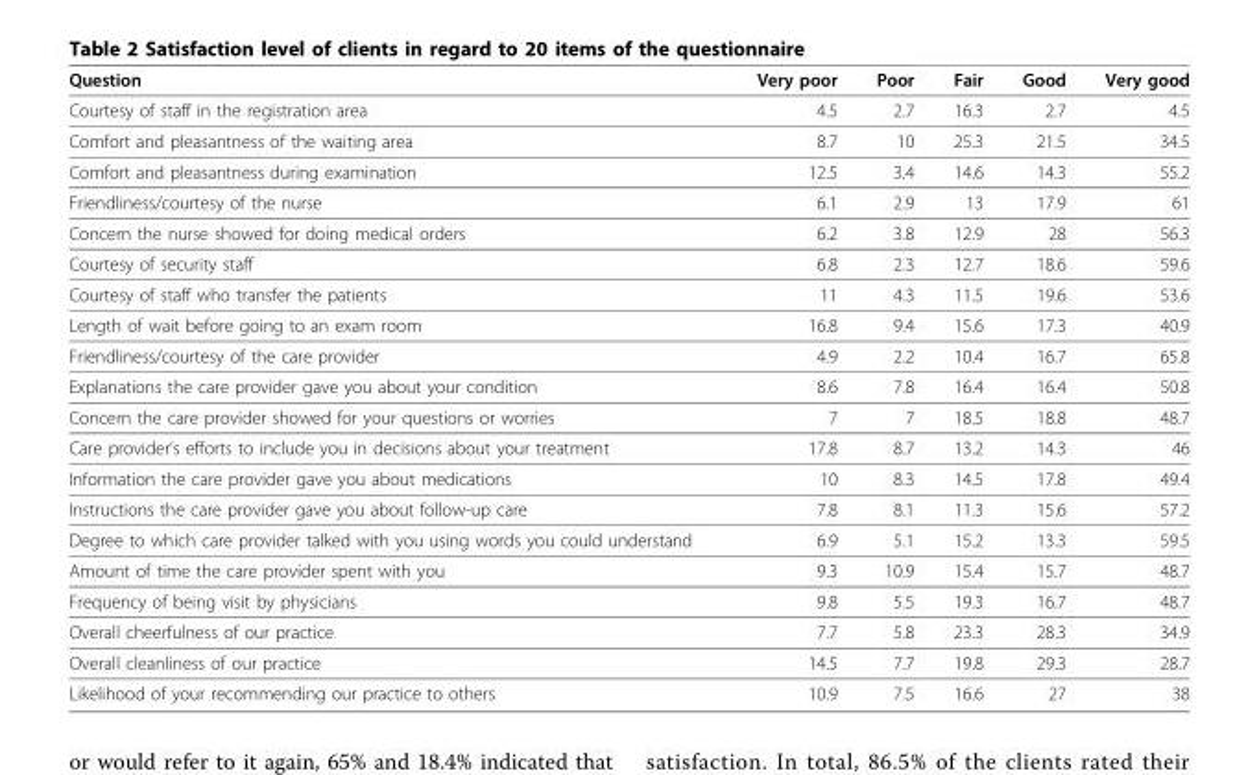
<table><thead><tr><td>Question</td><td>Very poor</td><td>Poor</td><td>Fair</td><td>Good</td><td>Very good</td></tr></thead><tbody><tr><td>Courtesy of staff in the registration area</td><td>4.5</td><td>2.7</td><td>16.3</td><td>2.7</td><td>4.5</td></tr><tr><td>Comfort and pleasantness of the waiting area</td><td>8.7</td><td>10</td><td>25.3</td><td>21.5</td><td>34.5</td></tr><tr><td>Comfort and pleasantness during examination</td><td>12.5</td><td>3.4</td><td>14.6</td><td>14.3</td><td>55.2</td></tr><tr><td>Friendliness/courtesy of the nurse</td><td>6.1</td><td>2.9</td><td>13</td><td>17.9</td><td>61</td></tr><tr><td>Concern the nurse showed for doing medical orders</td><td>6.2</td><td>3.8</td><td>12.9</td><td>28</td><td>56.3</td></tr><tr><td>Courtesy of security staff</td><td>6.8</td><td>2.3</td><td>12.7</td><td>18.6</td><td>59.6</td></tr><tr><td>Courtesy of staff who transfer the patients</td><td>11</td><td>4.3</td><td>11.5</td><td>19.6</td><td>53.6</td></tr><tr><td>Length of wait before going to an exam room</td><td>16.8</td><td>9.4</td><td>15.6</td><td>17.3</td><td>40.9</td></tr><tr><td>Friendliness/courtesy of the care provider</td><td>4.9</td><td>2.2</td><td>10.4</td><td>16.7</td><td>65.8</td></tr><tr><td>Explanations the care provider gave you about your condition</td><td>8.6</td><td>7.8</td><td>16.4</td><td>16.4</td><td>50.8</td></tr><tr><td>Concern the care provider showed for your questions or worries</td><td>7</td><td>7</td><td>18.5</td><td>18.8</td><td>48.7</td></tr><tr><td>Care provider’s efforts to include you in decisions about your treatment</td><td>17.8</td><td>8.7</td><td>13.2</td><td>14.3</td><td>46</td></tr><tr><td>Information the care provider gave you about medications</td><td>10</td><td>8.3</td><td>14.5</td><td>17.8</td><td>49.4</td></tr><tr><td>Instructions the care provider gave you about follow-up care</td><td>7.8</td><td>8.1</td><td>11.3</td><td>15.6</td><td>57.2</td></tr><tr><td>Degree to which care provider talked with you using words you could understand</td><td>6.9</td><td>5.1</td><td>15.2</td><td>13.3</td><td>59.5</td></tr><tr><td>Amount of time the care provider spent with you</td><td>9.3</td><td>10.9</td><td>15.4</td><td>15.7</td><td>48.7</td></tr><tr><td>Frequency of being visit by physicians</td><td>9.8</td><td>5.5</td><td>19.3</td><td>16.7</td><td>48.7</td></tr><tr><td>Overall cheerfulness of our practice</td><td>7.7</td><td>5.8</td><td>23.3</td><td>28.3</td><td>34.9</td></tr><tr><td>Overall cleanliness of our practice</td><td>14.5</td><td>7.7</td><td>19.8</td><td>29.3</td><td>28.7</td></tr><tr><td>Likelihood of your recommending our practice to others</td><td>10.9</td><td>7.5</td><td>16.6</td><td>27</td><td>38</td></tr></tbody></table>